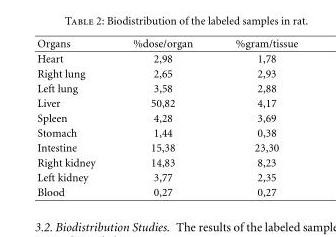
<table><thead><tr><td>Organs</td><td>%dose/organ</td><td>%gram/tissue</td></tr></thead><tbody><tr><td>Heart</td><td>2,98</td><td>1,78</td></tr><tr><td>Right lung</td><td>2,65</td><td>2,93</td></tr><tr><td>Left lung</td><td>3,58</td><td>2,88</td></tr><tr><td>Liver</td><td>50,82</td><td>4,17</td></tr><tr><td>Spleen</td><td>4,28</td><td>3,69</td></tr><tr><td>Stomach</td><td>1,44</td><td>0,38</td></tr><tr><td>Intestine</td><td>15,38</td><td>23,30</td></tr><tr><td>Right kidney</td><td>14,83</td><td>8,23</td></tr><tr><td>Left kidney</td><td>3,77</td><td>2,35</td></tr><tr><td>Blood</td><td>0,27</td><td>0,27</td></tr></tbody></table>